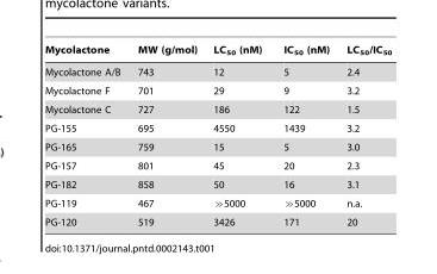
<table><thead><tr><td>Mycolactone</td><td>MW (g/mol)</td><td>LC<sub>50</sub> (nM)</td><td>IC<sub>50</sub> (nM)</td><td>LC<sub>50</sub>/IC<sub>50</sub></td></tr></thead><tbody><tr><td>Mycolactone A/B</td><td>743</td><td>12</td><td>5</td><td>2.4</td></tr><tr><td>Mycolactone F</td><td>701</td><td>29</td><td>9</td><td>3.2</td></tr><tr><td>Mycolactone C</td><td>727</td><td>186</td><td>122</td><td>1.5</td></tr><tr><td>PG-155</td><td>695</td><td>4550</td><td>1439</td><td>3.2</td></tr><tr><td>PG-165</td><td>759</td><td>15</td><td>5</td><td>3.0</td></tr><tr><td>PG-157</td><td>801</td><td>45</td><td>20</td><td>2.3</td></tr><tr><td>PG-182</td><td>858</td><td>50</td><td>16</td><td>3.1</td></tr><tr><td>PG-119</td><td>467</td><td>≫5000</td><td>≫5000</td><td>n.a.</td></tr><tr><td>PG-120</td><td>519</td><td>3426</td><td>171</td><td>20</td></tr></tbody></table>